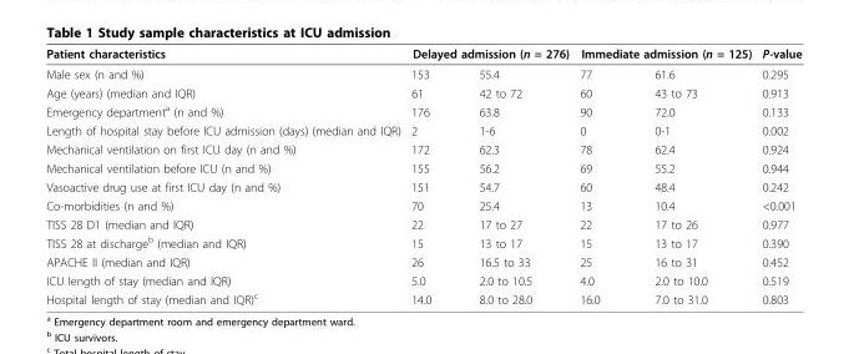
<table><thead><tr><td rowspan="2">Patient characteristics Male sex (n and %)</td><td colspan="2">Delayed admission (n = 276)</td><td colspan="2">Immediate admission (n = 125)</td><td rowspan="2">P-value 0.295</td></tr><tr><td>153</td><td>55.4</td><td>77</td><td>61.6</td></tr></thead><tbody><tr><td>Age (years) (median and IQR)</td><td>61</td><td>42 to 72</td><td>60</td><td>43 to 73</td><td>0.913</td></tr><tr><td>Emergency department<sup>a</sup> (n and %)</td><td>176</td><td>63.8</td><td>90</td><td>72.0</td><td>0.133</td></tr><tr><td>Length of hospital stay before ICU admission (days) (median and IQR)</td><td>2</td><td>1-6</td><td>0</td><td>0-1</td><td>0.002</td></tr><tr><td>Mechanical ventilation on first ICU day (n and %)</td><td>172</td><td>62.3</td><td>78</td><td>62.4</td><td>0.924</td></tr><tr><td>Mechanical ventilation before ICU (n and %)</td><td>155</td><td>56.2</td><td>69</td><td>55.2</td><td>0.944</td></tr><tr><td>Vasoactive drug use at first ICU day (n and %)</td><td>151</td><td>54.7</td><td>60</td><td>48.4</td><td>0.242</td></tr><tr><td>Co-morbidities (n and %)</td><td>70</td><td>25.4</td><td>13</td><td>10.4</td><td>&lt;0.001</td></tr><tr><td>TISS 28 D1 (median and IQR)</td><td>22</td><td>17 to 27</td><td>22</td><td>17 to 26</td><td>0.977</td></tr><tr><td>TISS 28 at discharge<sup>b</sup> (median and IQR)</td><td>15</td><td>13 to 17</td><td>15</td><td>13 to 17</td><td>0.390</td></tr><tr><td>APACHE II (median and IQR)</td><td>26</td><td>16.5 to 33</td><td>25</td><td>16 to 31</td><td>0.452</td></tr><tr><td>ICU length of stay (median and IQR)</td><td>5.0</td><td>2.0 to 10.5</td><td>4.0</td><td>2.0 to 10.0</td><td>0.519</td></tr><tr><td>Hospital length of stay (median and IQR)<sup>c</sup></td><td>14.0</td><td>8.0 to 28.0</td><td>16.0</td><td>7.0 to 31.0</td><td>0.803</td></tr></tbody></table>